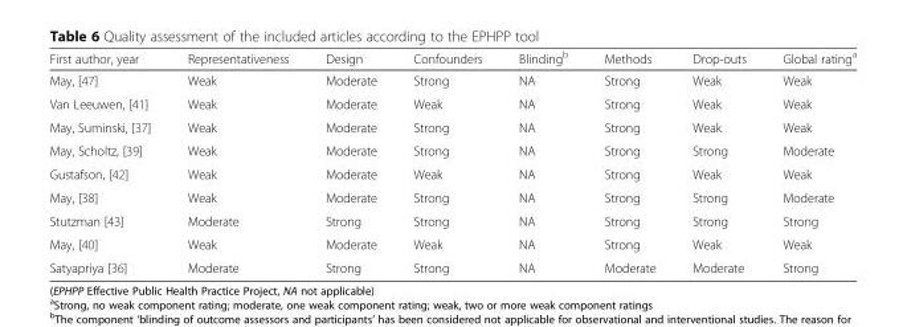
<table><thead><tr><td>First author, year</td><td>Representativeness</td><td>Design</td><td>Confounders</td><td>Blinding<sup>b</sup></td><td>Methods</td><td>Drop-outs</td><td>Global rating<sup>a</sup></td></tr></thead><tbody><tr><td>May, [47]</td><td>Weak</td><td>Moderate</td><td>Strong</td><td>NA</td><td>Strong</td><td>Weak</td><td>Weak</td></tr><tr><td>Van Leeuwen, [41]</td><td>Weak</td><td>Moderate</td><td>Weak</td><td>NA</td><td>Strong</td><td>Weak</td><td>Weak</td></tr><tr><td>May, Suminski, [37]</td><td>Weak</td><td>Moderate</td><td>Strong</td><td>NA</td><td>Strong</td><td>Weak</td><td>Weak</td></tr><tr><td>May, Scholtz, [39]</td><td>Weak</td><td>Moderate</td><td>Strong</td><td>NA</td><td>Strong</td><td>Strong</td><td>Moderate</td></tr><tr><td>Gustafson, [42]</td><td>Weak</td><td>Moderate</td><td>Weak</td><td>NA</td><td>Strong</td><td>Weak</td><td>Weak</td></tr><tr><td>May, [38]</td><td>Weak</td><td>Moderate</td><td>Strong</td><td>NA</td><td>Strong</td><td>Strong</td><td>Moderate</td></tr><tr><td>Stutzman [43]</td><td>Moderate</td><td>Strong</td><td>Strong</td><td>NA</td><td>Strong</td><td>Strong</td><td>Strong</td></tr><tr><td>May, [40]</td><td>Weak</td><td>Moderate</td><td>Weak</td><td>NA</td><td>Strong</td><td>Weak</td><td>Weak</td></tr><tr><td>Satyapriya [36]</td><td>Moderate</td><td>Strong</td><td>Strong</td><td>NA</td><td>Moderate</td><td>Moderate</td><td>Strong</td></tr></tbody></table>